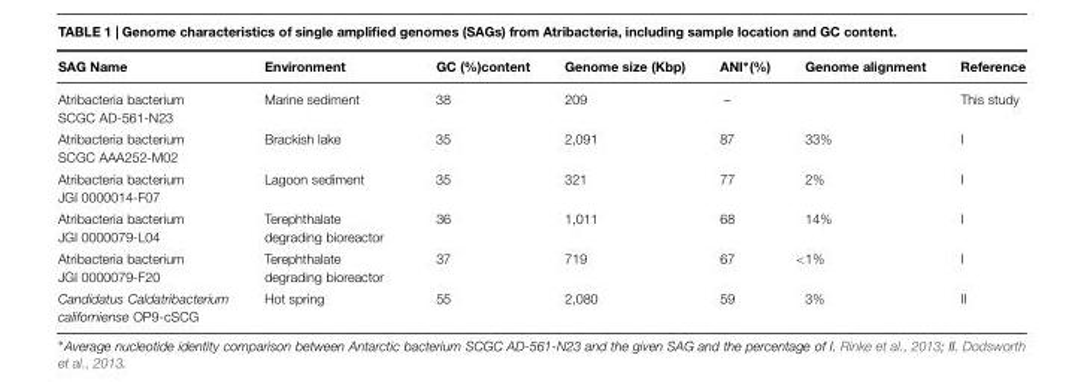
<table><thead><tr><td>SAG Name</td><td>Environment</td><td>GC (%)content</td><td>Genome size (Kbp)</td><td>ANI∗(%)</td><td>Genome alignment</td><td>Reference</td></tr></thead><tbody><tr><td>Atribacteria bacterium SCGC AD-561-N23</td><td>Marine sediment</td><td>38</td><td>209</td><td>–</td><td></td><td>This study</td></tr><tr><td>Atribacteria bacterium SCGC AAA252-M02</td><td>Brackish lake</td><td>35</td><td>2,091</td><td>87</td><td>33%</td><td>I</td></tr><tr><td>Atribacteria bacterium JGI 0000014-F07</td><td>Lagoon sediment</td><td>35</td><td>321</td><td>77</td><td>2%</td><td>I</td></tr><tr><td>Atribacteria bacterium JGI 0000079-L04</td><td>Terephthalate degrading bioreactor</td><td>36</td><td>1,011</td><td>68</td><td>14%</td><td>I</td></tr><tr><td>Atribacteria bacterium JGI 0000079-F20</td><td>Terephthalate degrading bioreactor</td><td>37</td><td>719</td><td>67</td><td>&lt;1%</td><td>I</td></tr><tr><td>Candidatus Caldatribacterium californiense OP9-cSCG</td><td>Hot spring</td><td>55</td><td>2,080</td><td>59</td><td>3%</td><td>II</td></tr></tbody></table>